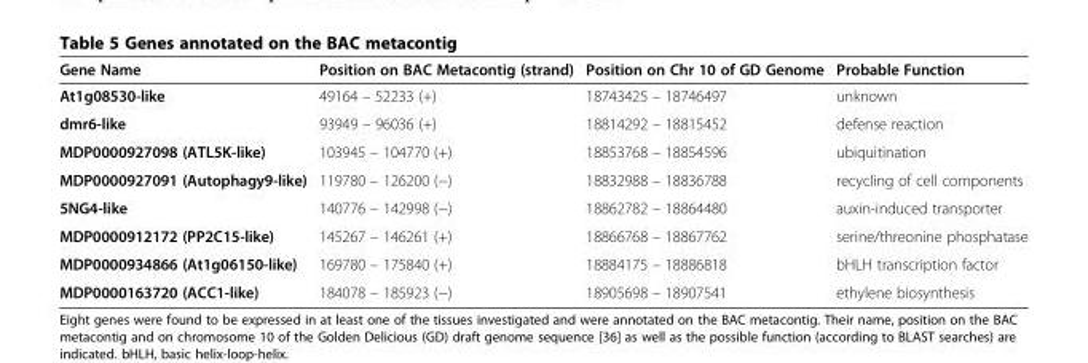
<table><thead><tr><td>Gene Name</td><td>Position on BAC Metacontig (strand)</td><td>Position on Chr 10 of GD Genome</td><td>Probable Function</td></tr></thead><tbody><tr><td>At1g08530-like</td><td>49164 – 52233 (+)</td><td>18743425 – 18746497</td><td>unknown</td></tr><tr><td>dmr6-like</td><td>93949 – 96036 (+)</td><td>18814292 – 18815452</td><td>defense reaction</td></tr><tr><td>MDP0000927098 (ATL5K-like)</td><td>103945 – 104770 (+)</td><td>18853768 – 18854596</td><td>ubiquitination</td></tr><tr><td>MDP0000927091 (Autophagy9-like)</td><td>119780 – 126200 (−)</td><td>18832988 – 18836788</td><td>recycling of cell components</td></tr><tr><td>5NG4-like</td><td>140776 – 142998 (−)</td><td>18862782 – 18864480</td><td>auxin-induced transporter</td></tr><tr><td>MDP0000912172 (PP2C15-like)</td><td>145267 – 146261 (+)</td><td>18866768 – 18867762</td><td>serine/threonine phosphatase</td></tr><tr><td>MDP0000934866 (At1g06150-like)</td><td>169780 – 175840 (+)</td><td>18884175 – 18886818</td><td>bHLH transcription factor</td></tr><tr><td>MDP0000163720 (ACC1-like)</td><td>184078 – 185923 (−)</td><td>18905698 – 18907541</td><td>ethylene biosynthesis</td></tr></tbody></table>